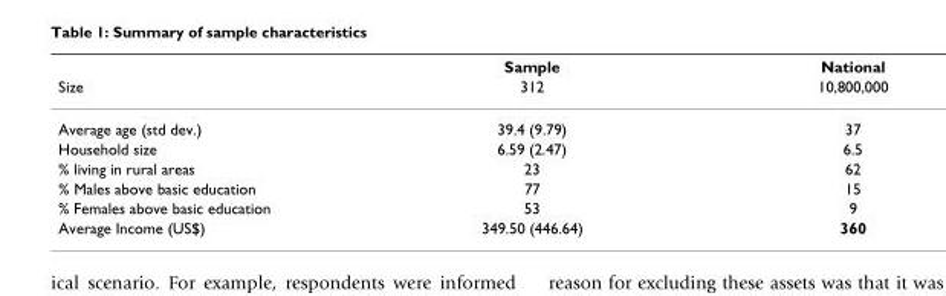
<table><thead><tr><td rowspan="2">Size</td><td rowspan="2">Sample 312</td><td rowspan="2">National 10,800,000</td></tr><tr></tr></thead><tbody><tr><td>Average age (std dev.)</td><td>39.4 (9.79)</td><td>37</td></tr><tr><td>Household size</td><td>6.59 (2.47)</td><td>6.5</td></tr><tr><td>% living in rural areas</td><td>23</td><td>62</td></tr><tr><td>% Males above basic education</td><td>77</td><td>15</td></tr><tr><td>% Females above basic education</td><td>53</td><td>9</td></tr><tr><td>Average Income (US$)</td><td>349.50 (446.64)</td><td>360</td></tr></tbody></table>